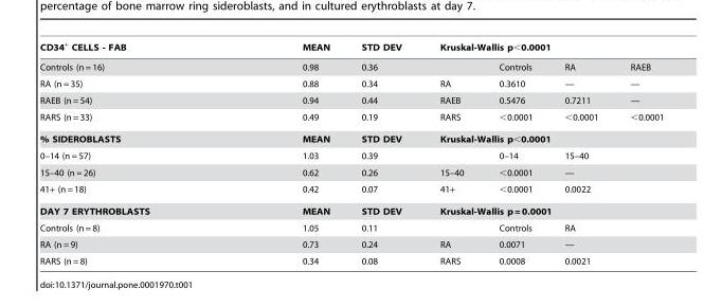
<table><thead><tr><td rowspan="2">CD34<sup>+</sup> CELLS - FAB Controls (n = 16)</td><td rowspan="2">MEAN 0.98</td><td rowspan="2">STD DEV 0.36</td><td colspan="4">Kruskal-Wallis p&lt;0.0001</td></tr><tr><td></td><td>Controls</td><td>RA</td><td>RAEB</td></tr></thead><tbody><tr><td>RA (n = 35)</td><td>0.88</td><td>0.34</td><td>RA</td><td>0.3610</td><td>—</td><td>—</td></tr><tr><td>RAEB (n = 54)</td><td>0.94</td><td>0.44</td><td>RAEB</td><td>0.5476</td><td>0.7211</td><td>—</td></tr><tr><td>RARS (n = 33)</td><td>0.49</td><td>0.19</td><td>RARS</td><td>&lt;0.0001</td><td>&lt;0.0001</td><td>&lt;0.0001</td></tr><tr><td>% SIDEROBLASTS</td><td>MEAN</td><td>STD DEV</td><td colspan="4">Kruskal-Wallis p&lt;0.0001</td></tr><tr><td>0–14 (n = 57)</td><td>1.03</td><td>0.39</td><td></td><td>0–14</td><td>15–40</td><td></td></tr><tr><td>15–40 (n = 26)</td><td>0.62</td><td>0.26</td><td>15–40</td><td>&lt;0.0001</td><td>—</td><td></td></tr><tr><td>41+ (n = 18)</td><td>0.42</td><td>0.07</td><td>41+</td><td>&lt;0.0001</td><td>0.0022</td><td></td></tr><tr><td>DAY 7 ERYTHROBLASTS</td><td>MEAN</td><td>STD DEV</td><td colspan="4">Kruskal-Wallis p = 0.0001</td></tr><tr><td>Controls (n = 8)</td><td>1.05</td><td>0.11</td><td></td><td>Controls</td><td>RA</td><td></td></tr><tr><td>RA (n = 9)</td><td>0.73</td><td>0.24</td><td>RA</td><td>0.0071</td><td>—</td><td></td></tr><tr><td>RARS (n = 8)</td><td>0.34</td><td>0.08</td><td>RARS</td><td>0.0008</td><td>0.0021</td><td></td></tr></tbody></table>